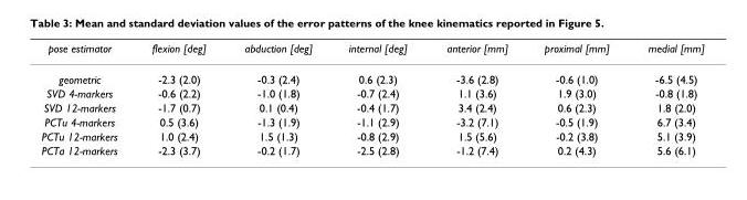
<table><thead><tr><td>pose estimator</td><td>flexion [deg]</td><td>abduction [deg]</td><td>internal [deg]</td><td>anterior [mm]</td><td>proximal [mm]</td><td>medial [mm]</td></tr></thead><tbody><tr><td>geometric</td><td>-2.3 (2.0)</td><td>-0.3 (2.4)</td><td>0.6 (2.3)</td><td>-3.6 (2.8)</td><td>-0.6 (1.0)</td><td>-6.5 (4.5)</td></tr><tr><td>SVD 4-markers</td><td>-0.6 (2.2)</td><td>-1.0 (1.8)</td><td>-0.7 (2.4)</td><td>1.1 (3.6)</td><td>1.9 (3.0)</td><td>-0.8 (1.8)</td></tr><tr><td>SVD 12-markers</td><td>-1.7 (0.7)</td><td>0.1 (0.4)</td><td>-0.4 (1.7)</td><td>3.4 (2.4)</td><td>0.6 (2.3)</td><td>1.8 (2.0)</td></tr><tr><td>PCTu 4-markers</td><td>0.5 (3.6)</td><td>-1.3 (1.9)</td><td>-1.1 (2.9)</td><td>-3.2 (7.1)</td><td>-0.5 (1.9)</td><td>6.7 (3.4)</td></tr><tr><td>PCTu 12-markers</td><td>1.0 (2.4)</td><td>1.5 (1.3)</td><td>-0.8 (2.9)</td><td>1.5 (5.6)</td><td>-0.2 (3.8)</td><td>5.1 (3.9)</td></tr><tr><td>PCTa 12-markers</td><td>-2.3 (3.7)</td><td>-0.2 (1.7)</td><td>-2.5 (2.8)</td><td>-1.2 (7.4)</td><td>0.2 (4.3)</td><td>5.6 (6.1)</td></tr></tbody></table>